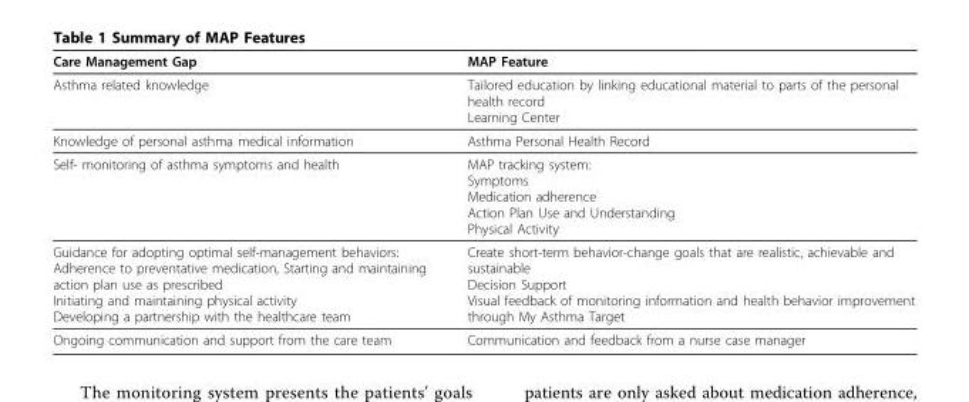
<table><thead><tr><td>Care Management Gap</td><td>MAP Feature</td></tr></thead><tbody><tr><td>Asthma related knowledge</td><td>Tailored education by linking educational material to parts of the personal health record Learning Center</td></tr><tr><td>Knowledge of personal asthma medical information</td><td>Asthma Personal Health Record</td></tr><tr><td>Self- monitoring of asthma symptoms and health</td><td>MAP tracking system: Symptoms Medication adherence Action Plan Use and Understanding Physical Activity</td></tr><tr><td>Guidance for adopting optimal self-management behaviors: Adherence to preventative medication, Starting and maintaining action plan use as prescribed Initiating and maintaining physical activity Developing a partnership with the healthcare team</td><td>Create short-term behavior-change goals that are realistic, achievable and sustainable Decision Support Visual feedback of monitoring information and health behavior improvement through My Asthma Target</td></tr><tr><td>Ongoing communication and support from the care team</td><td>Communication and feedback from a nurse case manager</td></tr></tbody></table>